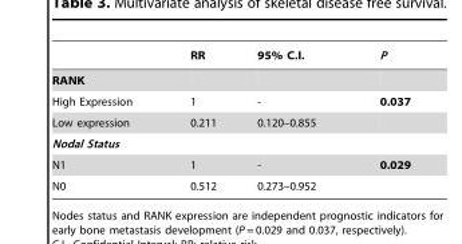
<table><thead><tr><td></td><td>RR</td><td>95% C.I.</td><td>P</td></tr></thead><tbody><tr><td colspan="4">RANK</td></tr><tr><td>High Expression</td><td>1</td><td>-</td><td>0.037</td></tr><tr><td>Low expression</td><td>0.211</td><td>0.120–0.855</td><td></td></tr><tr><td colspan="4">Nodal Status</td></tr><tr><td>N1</td><td>1</td><td>-</td><td>0.029</td></tr><tr><td>N0</td><td>0.512</td><td>0.273–0.952</td><td></td></tr></tbody></table>